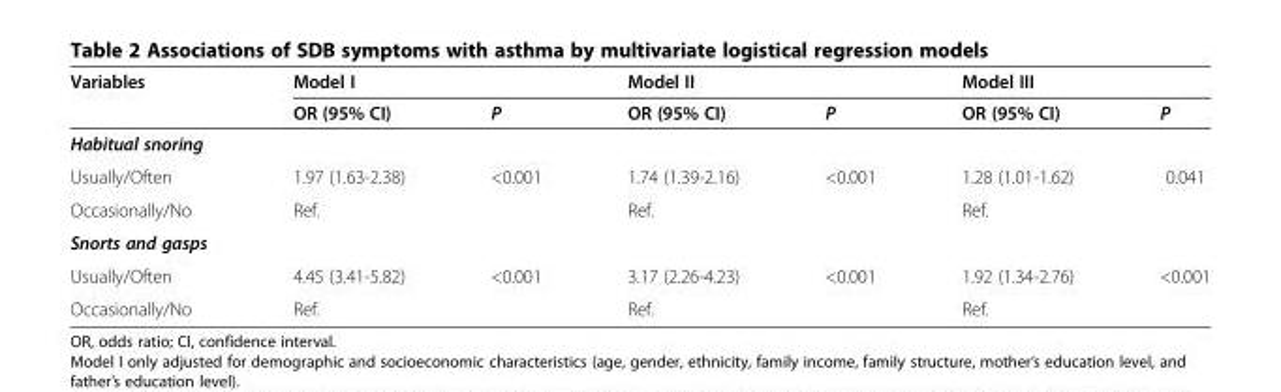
<table><thead><tr><td rowspan="2">Variables</td><td colspan="2">Model I</td><td colspan="2">Model II</td><td colspan="2">Model III</td></tr><tr><td>OR (95% CI)</td><td>P</td><td>OR (95% CI)</td><td>P</td><td>OR (95% CI)</td><td>P</td></tr></thead><tbody><tr><td colspan="7">Habitual snoring</td></tr><tr><td>Usually/Often</td><td>1.97 (1.63-2.38)</td><td>&lt;0.001</td><td>1.74 (1.39-2.16)</td><td>&lt;0.001</td><td>1.28 (1.01-1.62)</td><td>0.041</td></tr><tr><td>Occasionally/No</td><td>Ref.</td><td></td><td>Ref.</td><td></td><td>Ref.</td><td></td></tr><tr><td colspan="7">Snorts and gasps</td></tr><tr><td>Usually/Often</td><td>4.45 (3.41-5.82)</td><td>&lt;0.001</td><td>3.17 (2.26-4.23)</td><td>&lt;0.001</td><td>1.92 (1.34-2.76)</td><td>&lt;0.001</td></tr><tr><td>Occasionally/No</td><td>Ref.</td><td></td><td>Ref.</td><td></td><td>Ref.</td><td></td></tr></tbody></table>